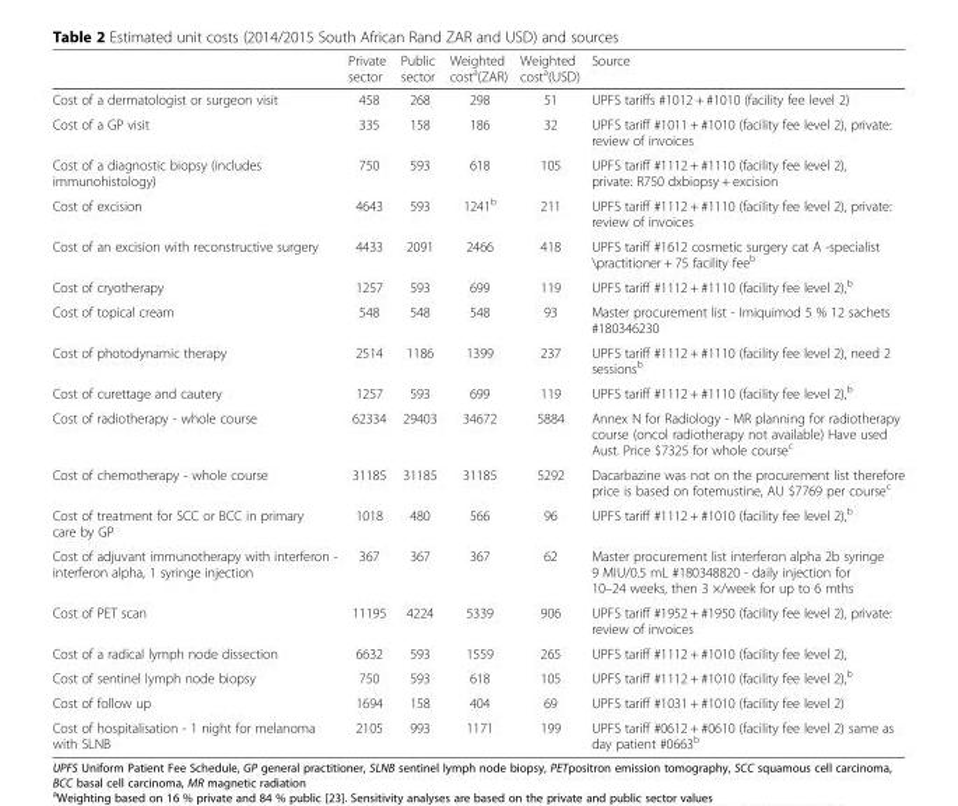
<table><thead><tr><td></td><td>Private sector</td><td>Public sector</td><td>Weighted cost<sup>a</sup>(ZAR)</td><td>Weighted cost<sup>a</sup>(USD)</td><td>Source</td></tr></thead><tbody><tr><td>Cost of a dermatologist or surgeon visit</td><td>458</td><td>268</td><td>298</td><td>51</td><td>UPFS tariffs #1012 + #1010 (facility fee level 2)</td></tr><tr><td>Cost of a GP visit</td><td>335</td><td>158</td><td>186</td><td>32</td><td>UPFS tariff #1011 + #1010 (facility fee level 2), private: review of invoices</td></tr><tr><td>Cost of a diagnostic biopsy (includes immunohistology)</td><td>750</td><td>593</td><td>618</td><td>105</td><td>UPFS tariff #1112 + #1110 (facility fee level 2), private: R750 dxbiopsy + excision</td></tr><tr><td>Cost of excision</td><td>4643</td><td>593</td><td>1241<sup>b</sup></td><td>211</td><td>UPFS tariff #1112 + #1110 (facility fee level 2), private: review of invoices</td></tr><tr><td>Cost of an excision with reconstructive surgery</td><td>4433</td><td>2091</td><td>2466</td><td>418</td><td>UPFS tariff #1612 cosmetic surgery cat A -specialist \practitioner + 75 facility fee<sup>b</sup></td></tr><tr><td>Cost of cryotherapy</td><td>1257</td><td>593</td><td>699</td><td>119</td><td>UPFS tariff #1112 + #1110 (facility fee level 2),<sup>b</sup></td></tr><tr><td>Cost of topical cream</td><td>548</td><td>548</td><td>548</td><td>93</td><td>Master procurement list - Imiquimod 5 % 12 sachets #180346230</td></tr><tr><td>Cost of photodynamic therapy</td><td>2514</td><td>1186</td><td>1399</td><td>237</td><td>UPFS tariff #1112 + #1110 (facility fee level 2), need 2 sessions<sup>b</sup></td></tr><tr><td>Cost of curettage and cautery</td><td>1257</td><td>593</td><td>699</td><td>119</td><td>UPFS tariff #1112 + #1110 (facility fee level 2),<sup>b</sup></td></tr><tr><td>Cost of radiotherapy - whole course</td><td>62334</td><td>29403</td><td>34672</td><td>5884</td><td>Annex N for Radiology - MR planning for radiotherapy course (oncol radiotherapy not available) Have used Aust. Price $7325 for whole course<sup>c</sup></td></tr><tr><td>Cost of chemotherapy - whole course</td><td>31185</td><td>31185</td><td>31185</td><td>5292</td><td>Dacarbazine was not on the procurement list therefore price is based on fotemustine, AU $7769 per course<sup>c</sup></td></tr><tr><td>Cost of treatment for SCC or BCC in primary care by GP</td><td>1018</td><td>480</td><td>566</td><td>96</td><td>UPFS tariff #1112 + #1010 (facility fee level 2),<sup>b</sup></td></tr><tr><td>Cost of adjuvant immunotherapy with interferon - interferon alpha, 1 syringe injection</td><td>367</td><td>367</td><td>367</td><td>62</td><td>Master procurement list interferon alpha 2b syringe 9 MIU/0.5 mL #180348820 - daily injection for 10–24 weeks, then 3 ×/week for up to 6 mths</td></tr><tr><td>Cost of PET scan</td><td>11195</td><td>4224</td><td>5339</td><td>906</td><td>UPFS tariff #1952 + #1950 (facility fee level 2), private: review of invoices</td></tr><tr><td>Cost of a radical lymph node dissection</td><td>6632</td><td>593</td><td>1559</td><td>265</td><td>UPFS tariff #1112 + #1010 (facility fee level 2),</td></tr><tr><td>Cost of sentinel lymph node biopsy</td><td>750</td><td>593</td><td>618</td><td>105</td><td>UPFS tariff #1112 + #1010 (facility fee level 2),<sup>b</sup></td></tr><tr><td>Cost of follow up</td><td>1694</td><td>158</td><td>404</td><td>69</td><td>UPFS tariff #1031 + #1010 (facility fee level 2)</td></tr><tr><td>Cost of hospitalisation - 1 night for melanoma with SLNB</td><td>2105</td><td>993</td><td>1171</td><td>199</td><td>UPFS tariff #0612 + #0610 (facility fee level 2) same as day patient #0663<sup>b</sup></td></tr></tbody></table>